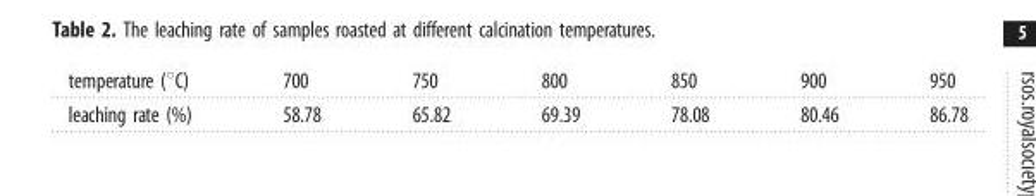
<table><tbody><tr><td>temperature (°C)</td><td>700</td><td>750</td><td>800</td><td>850</td><td>900</td><td>950</td></tr><tr><td>leaching rate (%)</td><td>58.78</td><td>65.82</td><td>69.39</td><td>78.08</td><td>80.46</td><td>86.78</td></tr></tbody></table>